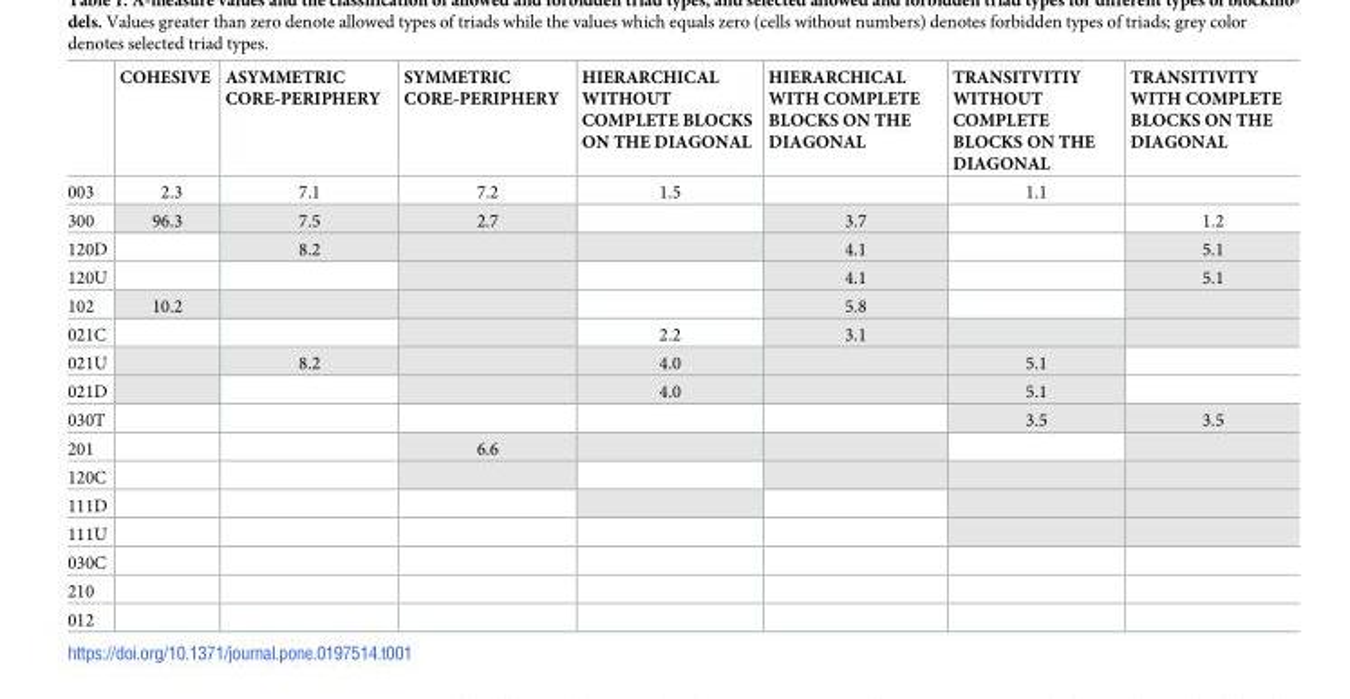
<table><thead><tr><td></td><td>COHESIVE</td><td>ASYMMETRIC CORE-PERIPHERY</td><td>SYMMETRIC CORE-PERIPHERY</td><td>HIERARCHICAL WITHOUT COMPLETE BLOCKS ON THE DIAGONAL</td><td>HIERARCHICAL WITH COMPLETE BLOCKS ON THE DIAGONAL</td><td>TRANSITVITIY WITHOUT COMPLETE BLOCKS ON THE DIAGONAL</td><td>TRANSITIVITY WITH COMPLETE BLOCKS ON THE DIAGONAL</td></tr></thead><tbody><tr><td>003</td><td>2.3</td><td>7.1</td><td>7.2</td><td>1.5</td><td></td><td>1.1</td><td></td></tr><tr><td>300</td><td>96.3</td><td>7.5</td><td>2.7</td><td></td><td>3.7</td><td></td><td>1.2</td></tr><tr><td>120D</td><td></td><td>8.2</td><td></td><td></td><td>4.1</td><td></td><td>5.1</td></tr><tr><td>120U</td><td></td><td></td><td></td><td></td><td>4.1</td><td></td><td>5.1</td></tr><tr><td>102</td><td>10.2</td><td></td><td></td><td></td><td>5.8</td><td></td><td></td></tr><tr><td>021C</td><td></td><td></td><td></td><td>2.2</td><td>3.1</td><td></td><td></td></tr><tr><td>021U</td><td></td><td>8.2</td><td></td><td>4.0</td><td></td><td>5.1</td><td></td></tr><tr><td>021D</td><td></td><td></td><td></td><td>4.0</td><td></td><td>5.1</td><td></td></tr><tr><td>030T</td><td></td><td></td><td></td><td></td><td></td><td>3.5</td><td>3.5</td></tr><tr><td>201</td><td></td><td></td><td>6.6</td><td></td><td></td><td></td><td></td></tr><tr><td colspan="8">120C</td></tr><tr><td colspan="8">111D</td></tr><tr><td colspan="8">111U</td></tr><tr><td colspan="8">030C</td></tr><tr><td colspan="8">210</td></tr><tr><td>012</td><td></td><td></td><td></td><td></td><td></td><td></td><td></td></tr></tbody></table>